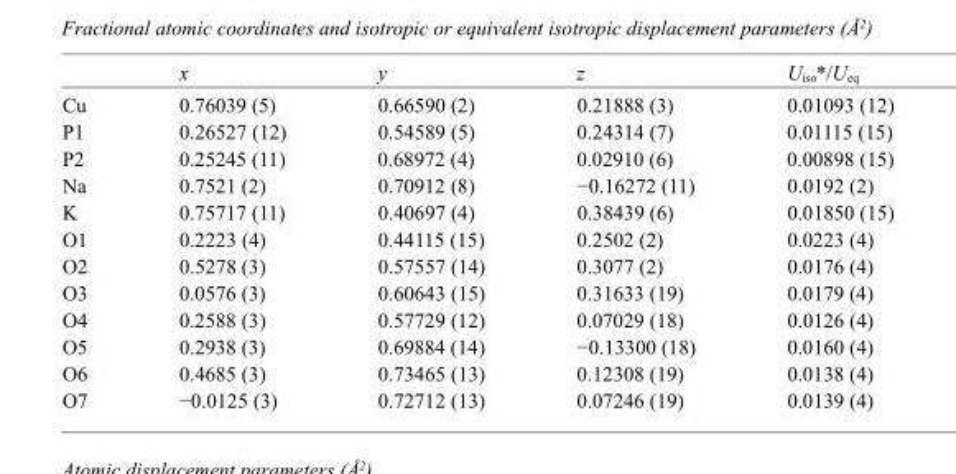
<table><thead><tr><td></td><td>x</td><td>y</td><td>z</td><td>U<sub>iso</sub>*/U<sub>eq</sub></td></tr></thead><tbody><tr><td>Cu</td><td>0.76039 (5)</td><td>0.66590 (2)</td><td>0.21888 (3)</td><td>0.01093 (12)</td></tr><tr><td>P1</td><td>0.26527 (12)</td><td>0.54589 (5)</td><td>0.24314 (7)</td><td>0.01115 (15)</td></tr><tr><td>P2</td><td>0.25245 (11)</td><td>0.68972 (4)</td><td>0.02910 (6)</td><td>0.00898 (15)</td></tr><tr><td>Na</td><td>0.7521 (2)</td><td>0.70912 (8)</td><td>−0.16272 (11)</td><td>0.0192 (2)</td></tr><tr><td>K</td><td>0.75717 (11)</td><td>0.40697 (4)</td><td>0.38439 (6)</td><td>0.01850 (15)</td></tr><tr><td>O1</td><td>0.2223 (4)</td><td>0.44115 (15)</td><td>0.2502 (2)</td><td>0.0223 (4)</td></tr><tr><td>O2</td><td>0.5278 (3)</td><td>0.57557 (14)</td><td>0.3077 (2)</td><td>0.0176 (4)</td></tr><tr><td>O3</td><td>0.0576 (3)</td><td>0.60643 (15)</td><td>0.31633 (19)</td><td>0.0179 (4)</td></tr><tr><td>O4</td><td>0.2588 (3)</td><td>0.57729 (12)</td><td>0.07029 (18)</td><td>0.0126 (4)</td></tr><tr><td>O5</td><td>0.2938 (3)</td><td>0.69884 (14)</td><td>−0.13300 (18)</td><td>0.0160 (4)</td></tr><tr><td>O6</td><td>0.4685 (3)</td><td>0.73465 (13)</td><td>0.12308 (19)</td><td>0.0138 (4)</td></tr><tr><td>O7</td><td>−0.0125 (3)</td><td>0.72712 (13)</td><td>0.07246 (19)</td><td>0.0139 (4)</td></tr></tbody></table>